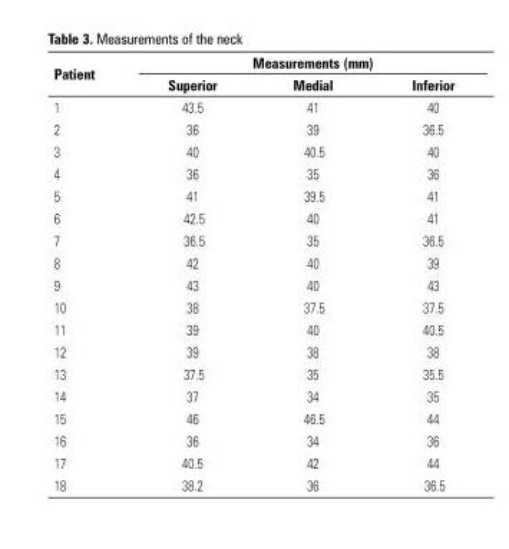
<table><thead><tr><td rowspan="2">Patient</td><td colspan="3">Measurements (mm)</td></tr><tr><td>Superior</td><td>Medial</td><td>Inferior</td></tr></thead><tbody><tr><td>1</td><td>43.5</td><td>41</td><td>40</td></tr><tr><td>2</td><td>36</td><td>39</td><td>36.5</td></tr><tr><td>3</td><td>40</td><td>40.5</td><td>40</td></tr><tr><td>4</td><td>36</td><td>35</td><td>36</td></tr><tr><td>5</td><td>41</td><td>39.5</td><td>41</td></tr><tr><td>6</td><td>42.5</td><td>40</td><td>41</td></tr><tr><td>7</td><td>36.5</td><td>35</td><td>36.5</td></tr><tr><td>8</td><td>42</td><td>40</td><td>39</td></tr><tr><td>9</td><td>43</td><td>40</td><td>43</td></tr><tr><td>10</td><td>38</td><td>37.5</td><td>37.5</td></tr><tr><td>11</td><td>39</td><td>40</td><td>40.5</td></tr><tr><td>12</td><td>39</td><td>38</td><td>38</td></tr><tr><td>13</td><td>37.5</td><td>35</td><td>35.5</td></tr><tr><td>14</td><td>37</td><td>34</td><td>35</td></tr><tr><td>15</td><td>46</td><td>46.5</td><td>44</td></tr><tr><td>16</td><td>36</td><td>34</td><td>36</td></tr><tr><td>17</td><td>40.5</td><td>42</td><td>44</td></tr><tr><td>18</td><td>38.2</td><td>36</td><td>36.5</td></tr></tbody></table>